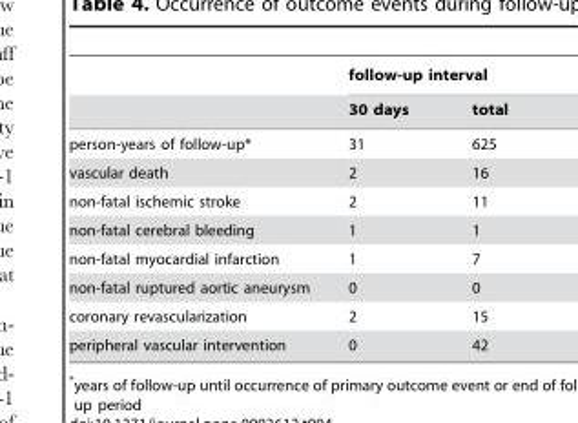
<table><thead><tr><td rowspan="2"></td><td colspan="2">follow-up interval</td></tr><tr><td>30 days</td><td>total</td></tr></thead><tbody><tr><td>person-years of follow-up*</td><td>31</td><td>625</td></tr><tr><td>vascular death</td><td>2</td><td>16</td></tr><tr><td>non-fatal ischemic stroke</td><td>2</td><td>11</td></tr><tr><td>non-fatal cerebral bleeding</td><td>1</td><td>1</td></tr><tr><td>non-fatal myocardial infarction</td><td>1</td><td>7</td></tr><tr><td>non-fatal ruptured aortic aneurysm</td><td>0</td><td>0</td></tr><tr><td>coronary revascularization</td><td>2</td><td>15</td></tr><tr><td>peripheral vascular intervention</td><td>0</td><td>42</td></tr></tbody></table>